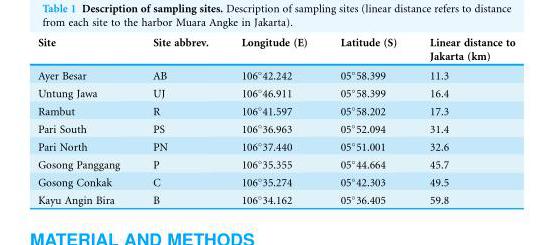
<table><thead><tr><td>Site</td><td>Site abbrev.</td><td>Longitude (E)</td><td>Latitude (S)</td><td>Linear distance to Jakarta (km)</td></tr></thead><tbody><tr><td>Ayer Besar</td><td>AB</td><td>106°42.242</td><td>05°58.399</td><td>11.3</td></tr><tr><td>Untung Jawa</td><td>UJ</td><td>106°46.911</td><td>05°58.399</td><td>16.4</td></tr><tr><td>Rambut</td><td>R</td><td>106°41.597</td><td>05°58.202</td><td>17.3</td></tr><tr><td>Pari South</td><td>PS</td><td>106°36.963</td><td>05°52.094</td><td>31.4</td></tr><tr><td>Pari North</td><td>PN</td><td>106°37.440</td><td>05°51.001</td><td>32.6</td></tr><tr><td>Gosong Panggang</td><td>P</td><td>106°35.355</td><td>05°44.664</td><td>45.7</td></tr><tr><td>Gosong Conkak</td><td>C</td><td>106°35.274</td><td>05°42.303</td><td>49.5</td></tr><tr><td>Kayu Angin Bira</td><td>B</td><td>106°34.162</td><td>05°36.405</td><td>59.8</td></tr></tbody></table>